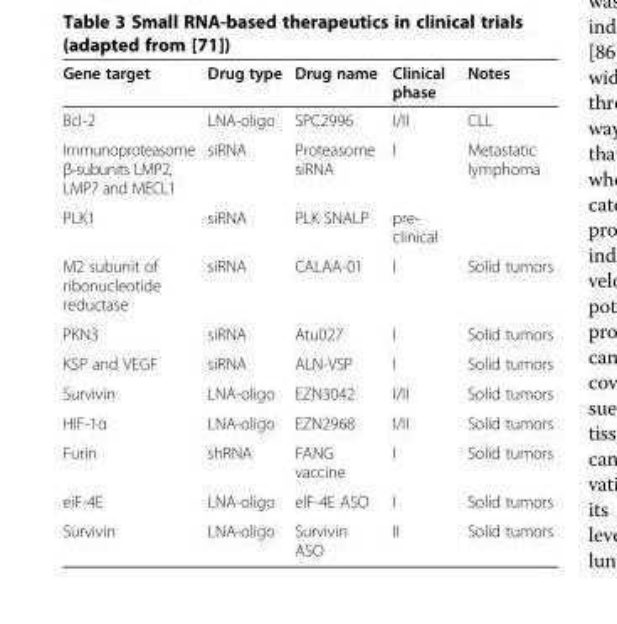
<table><thead><tr><td>Gene target</td><td>Drug type</td><td>Drug name</td><td>Clinical phase</td><td>Notes</td></tr></thead><tbody><tr><td>Bcl-2</td><td>LNA-oligo</td><td>SPC2996</td><td>I/II</td><td>CLL</td></tr><tr><td>Immunoproteasome β-subunits LMP2, LMP7 and MECL1</td><td>siRNA</td><td>Proteasome siRNA</td><td>I</td><td>Metastatic lymphoma</td></tr><tr><td>PLK1</td><td>siRNA</td><td>PLK SNALP</td><td>pre- clinical</td><td></td></tr><tr><td>M2 subunit of ribonucleotide reductase</td><td>siRNA</td><td>CALAA-01</td><td>I</td><td>Solid tumors</td></tr><tr><td>PKN3</td><td>siRNA</td><td>Atu027</td><td>I</td><td>Solid tumors</td></tr><tr><td>KSP and VEGF</td><td>siRNA</td><td>ALN-VSP</td><td>I</td><td>Solid tumors</td></tr><tr><td>Survivin</td><td>LNA-oligo</td><td>EZN3042</td><td>I/II</td><td>Solid tumors</td></tr><tr><td>HIF-1α</td><td>LNA-oligo</td><td>EZN2968</td><td>I/II</td><td>Solid tumors</td></tr><tr><td>Furin</td><td>shRNA</td><td>FANG vaccine</td><td>I</td><td>Solid tumors</td></tr><tr><td>eiF-4E</td><td>LNA-oligo</td><td>elF-4E ASO</td><td>I</td><td>Solid tumors</td></tr><tr><td>Survivin</td><td>LNA-oligo</td><td>Survivin ASO</td><td>II</td><td>Solid tumors</td></tr></tbody></table>